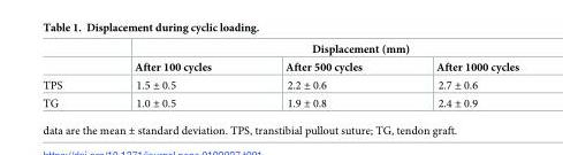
<table><thead><tr><td rowspan="2"></td><td colspan="3">Displacement (mm)</td></tr><tr><td>After 100 cycles</td><td>After 500 cycles</td><td>After 1000 cycles</td></tr></thead><tbody><tr><td>TPS</td><td>1.5 ± 0.5</td><td>2.2 ± 0.6</td><td>2.7 ± 0.6</td></tr><tr><td>TG</td><td>1.0 ± 0.5</td><td>1.9 ± 0.8</td><td>2.4 ± 0.9</td></tr></tbody></table>